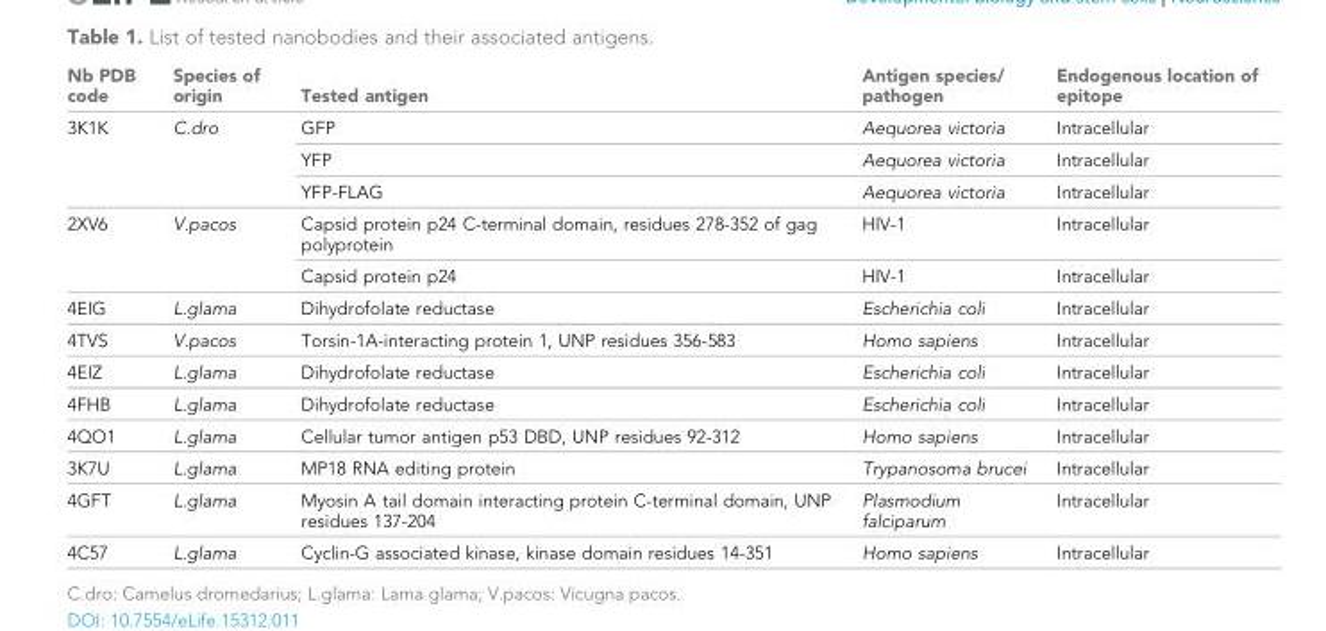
<table><thead><tr><td>Nb PDB code</td><td>Species of origin</td><td>Tested antigen</td><td>Antigen species/ pathogen</td><td>Endogenous location of epitope</td></tr></thead><tbody><tr><td rowspan="3">3K1K</td><td rowspan="3">C.dro</td><td>GFP</td><td>Aequorea victoria</td><td>Intracellular</td></tr><tr><td>YFP</td><td>Aequorea victoria</td><td>Intracellular</td></tr><tr><td>YFP-FLAG</td><td>Aequorea victoria</td><td>Intracellular</td></tr><tr><td rowspan="2">2XV6</td><td rowspan="2">V.pacos</td><td>Capsid protein p24 C-terminal domain, residues 278-352 of gag polyprotein</td><td>HIV-1</td><td>Intracellular</td></tr><tr><td>Capsid protein p24</td><td>HIV-1</td><td>Intracellular</td></tr><tr><td>4EIG</td><td>L.glama</td><td>Dihydrofolate reductase</td><td>Escherichia coli</td><td>Intracellular</td></tr><tr><td>4TVS</td><td>V.pacos</td><td>Torsin-1A-interacting protein 1, UNP residues 356-583</td><td>Homo sapiens</td><td>Intracellular</td></tr><tr><td>4EIZ</td><td>L.glama</td><td>Dihydrofolate reductase</td><td>Escherichia coli</td><td>Intracellular</td></tr><tr><td>4FHB</td><td>L.glama</td><td>Dihydrofolate reductase</td><td>Escherichia coli</td><td>Intracellular</td></tr><tr><td>4QO1</td><td>L.glama</td><td>Cellular tumor antigen p53 DBD, UNP residues 92-312</td><td>Homo sapiens</td><td>Intracellular</td></tr><tr><td>3K7U</td><td>L.glama</td><td>MP18 RNA editing protein</td><td>Trypanosoma brucei</td><td>Intracellular</td></tr><tr><td>4GFT</td><td>L.glama</td><td>Myosin A tail domain interacting protein C-terminal domain, UNP residues 137-204</td><td>Plasmodium falciparum</td><td>Intracellular</td></tr><tr><td>4C57</td><td>L.glama</td><td>Cyclin-G associated kinase, kinase domain residues 14-351</td><td>Homo sapiens</td><td>Intracellular</td></tr></tbody></table>